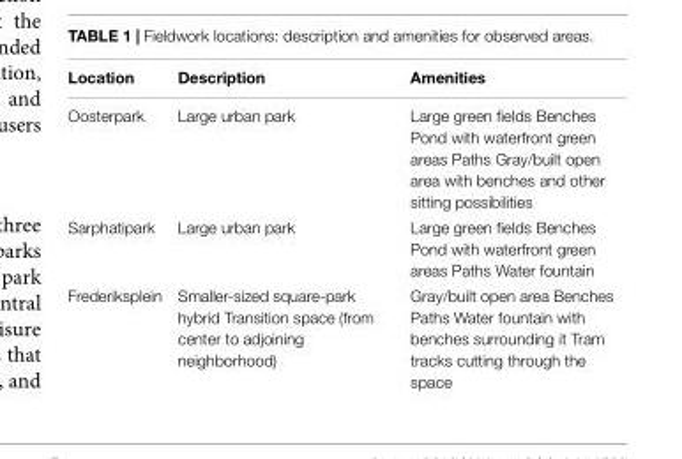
<table><thead><tr><td>Location</td><td>Description</td><td>Amenities</td></tr></thead><tbody><tr><td>Oosterpark</td><td>Large urban park</td><td>Large green fields Benches Pond with waterfront green areas Paths Gray/built open area with benches and other sitting possibilities</td></tr><tr><td>Sarphatipark</td><td>Large urban park</td><td>Large green fields Benches Pond with waterfront green areas Paths Water fountain</td></tr><tr><td>Frederiksplein</td><td>Smaller-sized square-park hybrid Transition space (from center to adjoining neighborhood)</td><td>Gray/built open area Benches Paths Water fountain with benches surrounding it Tram tracks cutting through the space</td></tr></tbody></table>